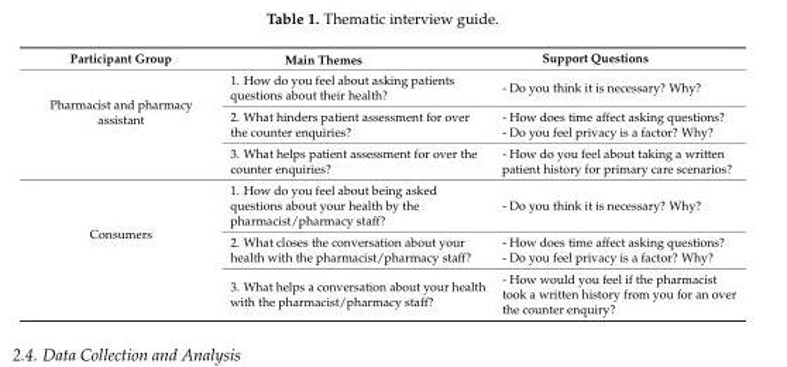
<table><thead><tr><td>Participant Group</td><td>Main Themes</td><td>Support Questions</td></tr></thead><tbody><tr><td rowspan="3">Pharmacist and pharmacy assistant</td><td>1. How do you feel about asking patients questions about their health?</td><td>- Do you think it is necessary? Why?</td></tr><tr><td>2. What hinders patient assessment for over the counter enquiries?</td><td>- How does time affect asking questions? - Do you feel privacy is a factor? Why?</td></tr><tr><td>3. What helps patient assessment for over the counter enquiries?</td><td>- How do you feel about taking a written patient history for primary care scenarios?</td></tr><tr><td rowspan="3">Consumers</td><td>1. How do you feel about being asked questions about your health by the pharmacist/pharmacy staff?</td><td>- Do you think it is necessary? Why?</td></tr><tr><td>2. What closes the conversation about your health with the pharmacist/pharmacy staff?</td><td>- How does time affect asking questions? - Do you feel privacy is a factor? Why?</td></tr><tr><td>3. What helps a conversation about your health with the pharmacist/pharmacy staff?</td><td>- How would you feel if the pharmacist took a written history from you for an over the counter enquiry?</td></tr></tbody></table>